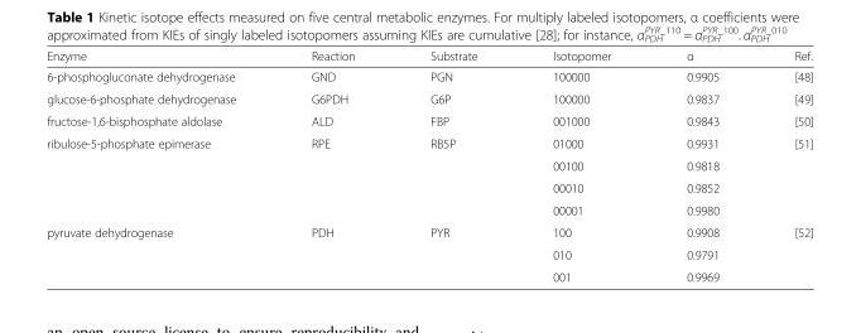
<table><thead><tr><td>Enzyme</td><td>Reaction</td><td>Substrate</td><td>Isotopomer</td><td>α</td><td>Ref.</td></tr></thead><tbody><tr><td>6-phosphogluconate dehydrogenase</td><td>GND</td><td>PGN</td><td>100000</td><td>0.9905</td><td>[48]</td></tr><tr><td>glucose-6-phosphate dehydrogenase</td><td>G6PDH</td><td>G6P</td><td>100000</td><td>0.9837</td><td>[49]</td></tr><tr><td>fructose-1,6-bisphosphate aldolase</td><td>ALD</td><td>FBP</td><td>001000</td><td>0.9843</td><td>[50]</td></tr><tr><td rowspan="4">ribulose-5-phosphate epimerase</td><td rowspan="4">RPE</td><td rowspan="4">RB5P</td><td>01000</td><td>0.9931</td><td rowspan="4">[51]</td></tr><tr><td>00100</td><td>0.9818</td></tr><tr><td>00010</td><td>0.9852</td></tr><tr><td>00001</td><td>0.9980</td></tr><tr><td rowspan="3">pyruvate dehydrogenase</td><td rowspan="3">PDH</td><td rowspan="3">PYR</td><td>100</td><td>0.9908</td><td rowspan="3">[52]</td></tr><tr><td>010</td><td>0.9791</td></tr><tr><td>001</td><td>0.9969</td></tr></tbody></table>